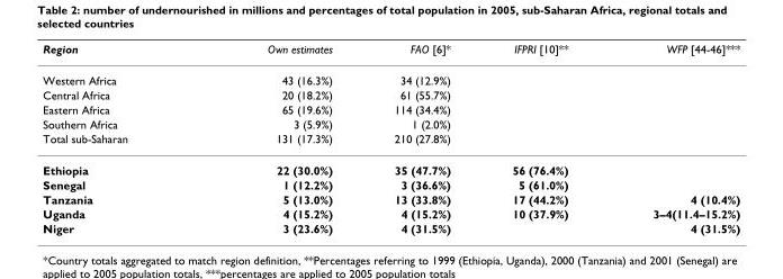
<table><thead><tr><td>Region</td><td>Own estimates</td><td>FAO [6]*</td><td>IFPRI [10]**</td><td>WFP [44-46]***</td></tr></thead><tbody><tr><td>Western Africa</td><td>43 (16.3%)</td><td>34 (12.9%)</td><td></td><td></td></tr><tr><td>Central Africa</td><td>20 (18.2%)</td><td>61 (55.7%)</td><td></td><td></td></tr><tr><td>Eastern Africa</td><td>65 (19.6%)</td><td>114 (34.4%)</td><td></td><td></td></tr><tr><td>Southern Africa</td><td>3 (5.9%)</td><td>1 (2.0%)</td><td></td><td></td></tr><tr><td>Total sub-Saharan</td><td>131 (17.3%)</td><td>210 (27.8%)</td><td></td><td></td></tr><tr><td>Ethiopia</td><td>22 (30.0%)</td><td>35 (47.7%)</td><td>56 (76.4%)</td><td></td></tr><tr><td>Senegal</td><td>1 (12.2%)</td><td>3 (36.6%)</td><td>5 (61.0%)</td><td></td></tr><tr><td>Tanzania</td><td>5 (13.0%)</td><td>13 (33.8%)</td><td>17 (44.2%)</td><td>4 (10.4%)</td></tr><tr><td>Uganda</td><td>4 (15.2%)</td><td>4 (15.2%)</td><td>10 (37.9%)</td><td>3–4(11.4–15.2%)</td></tr><tr><td>Niger</td><td>3 (23.6%)</td><td>4 (31.5%)</td><td></td><td>4 (31.5%)</td></tr></tbody></table>